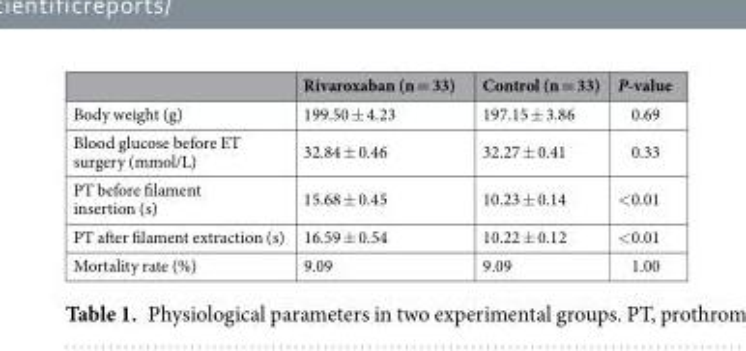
<table><thead><tr><td></td><td>Rivaroxaban (n = 33)</td><td>Control (n = 33)</td><td>P-value</td></tr></thead><tbody><tr><td>Body weight (g)</td><td>199.50 ± 4.23</td><td>197.15 ± 3.86</td><td>0.69</td></tr><tr><td>Blood glucose before ET surgery (mmol/L)</td><td>32.84 ± 0.46</td><td>32.27 ± 0.41</td><td>0.33</td></tr><tr><td>PT before filament insertion (s)</td><td>15.68 ± 0.45</td><td>10.23 ± 0.14</td><td>&lt;0.01</td></tr><tr><td>PT after filament extraction (s)</td><td>16.59 ± 0.54</td><td>10.22 ± 0.12</td><td>&lt;0.01</td></tr><tr><td>Mortality rate (%)</td><td>9.09</td><td>9.09</td><td>1.00</td></tr></tbody></table>